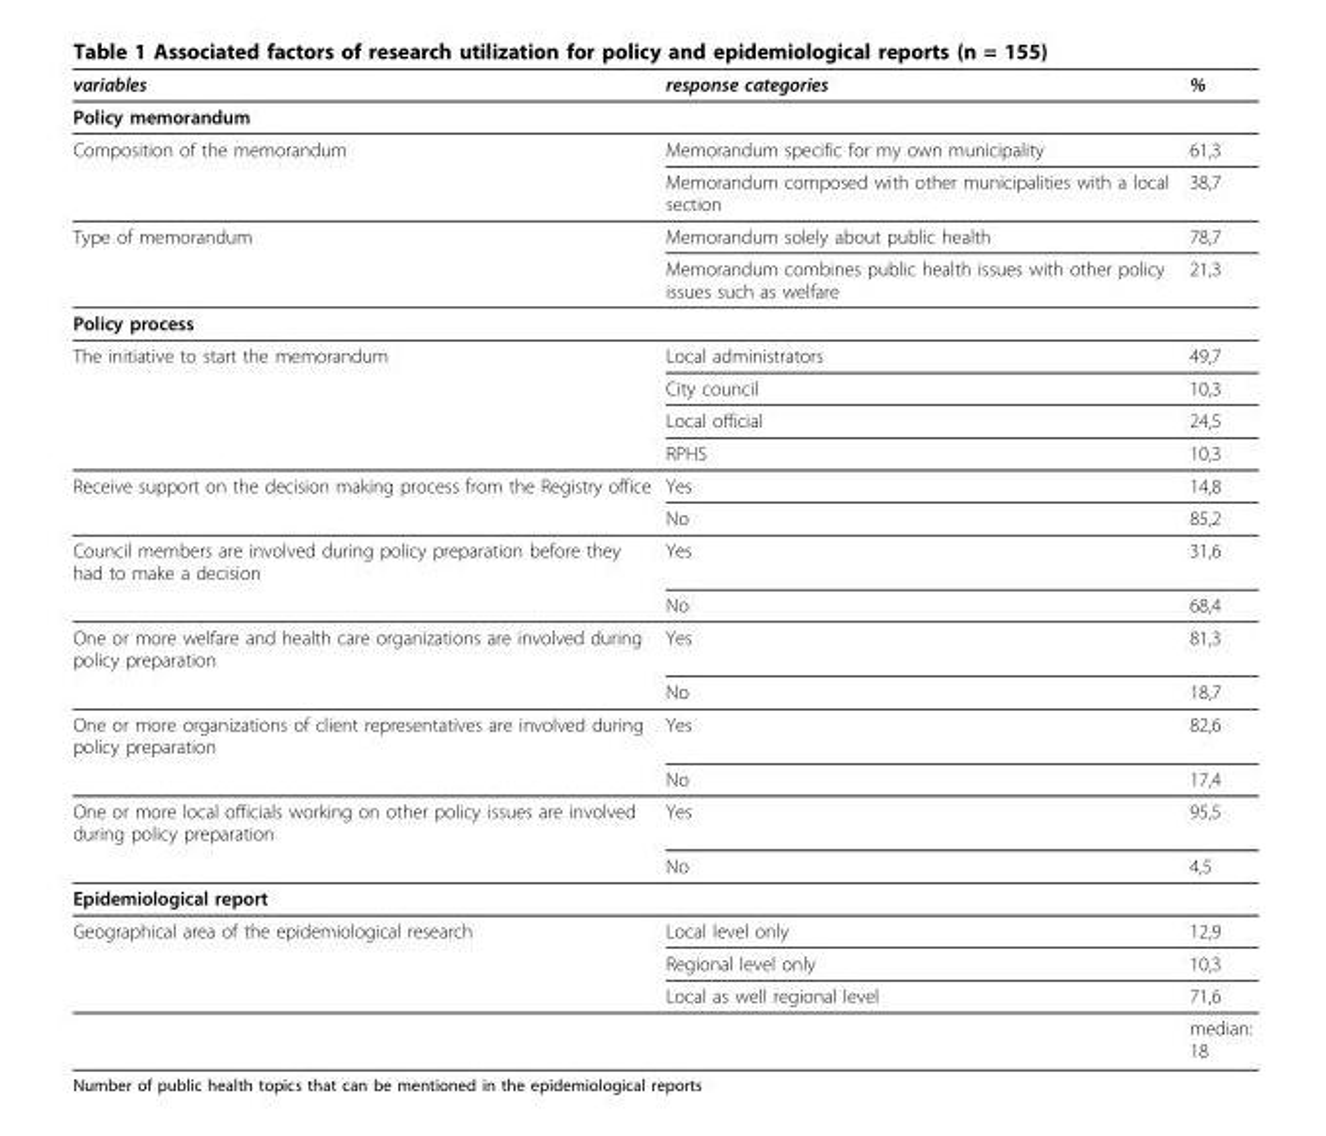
<table><thead><tr><td>variables</td><td>response categories</td><td>%</td></tr></thead><tbody><tr><td colspan="3">Policy memorandum</td></tr><tr><td rowspan="2">Composition of the memorandum</td><td>Memorandum specific for my own municipality</td><td>61,3</td></tr><tr><td>Memorandum composed with other municipalities with a local section</td><td>38,7</td></tr><tr><td rowspan="2">Type of memorandum</td><td>Memorandum solely about public health</td><td>78,7</td></tr><tr><td>Memorandum combines public health issues with other policy issues such as welfare</td><td>21,3</td></tr><tr><td colspan="3">Policy process</td></tr><tr><td rowspan="4">The initiative to start the memorandum</td><td>Local administrators</td><td>49,7</td></tr><tr><td>City council</td><td>10,3</td></tr><tr><td>Local official</td><td>24,5</td></tr><tr><td>RPHS</td><td>10,3</td></tr><tr><td rowspan="2">Receive support on the decision making process from the Registry office</td><td>Yes</td><td>14,8</td></tr><tr><td>No</td><td>85,2</td></tr><tr><td rowspan="2">Council members are involved during policy preparation before they had to make a decision</td><td>Yes</td><td>31,6</td></tr><tr><td>No</td><td>68,4</td></tr><tr><td rowspan="2">One or more welfare and health care organizations are involved during policy preparation</td><td>Yes</td><td>81,3</td></tr><tr><td>No</td><td>18,7</td></tr><tr><td rowspan="2">One or more organizations of client representatives are involved during policy preparation</td><td>Yes</td><td>82,6</td></tr><tr><td>No</td><td>17,4</td></tr><tr><td rowspan="2">One or more local officials working on other policy issues are involved during policy preparation</td><td>Yes</td><td>95,5</td></tr><tr><td>No</td><td>4,5</td></tr><tr><td colspan="3">Epidemiological report</td></tr><tr><td rowspan="4">Geographical area of the epidemiological research</td><td>Local level only</td><td>12,9</td></tr><tr><td>Regional level only</td><td>10,3</td></tr><tr><td>Local as well regional level</td><td>71,6</td></tr><tr><td></td><td>median: 18</td></tr></tbody></table>